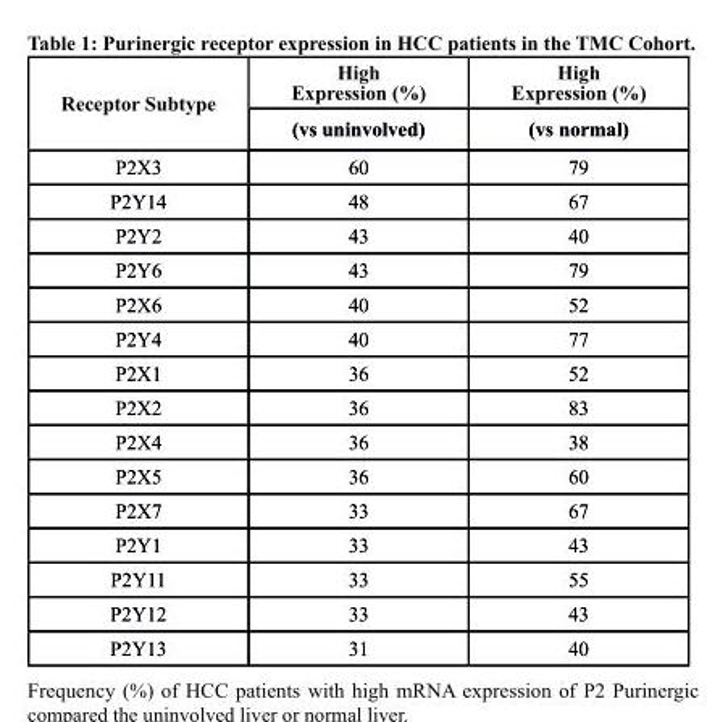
<table><thead><tr><td rowspan="2">receptor subtype</td><td rowspan="2">High Expression (%) (vs uninvolved)</td><td rowspan="2">High Expression (%) (vs normal)</td></tr><tr></tr></thead><tbody><tr><td>P2X3</td><td>60</td><td>79</td></tr><tr><td>P2Y14</td><td>48</td><td>67</td></tr><tr><td>P2Y2</td><td>43</td><td>40</td></tr><tr><td>P2Y6</td><td>43</td><td>79</td></tr><tr><td>P2X6</td><td>40</td><td>52</td></tr><tr><td>P2Y4</td><td>40</td><td>77</td></tr><tr><td>P2X1</td><td>36</td><td>52</td></tr><tr><td>P2X2</td><td>36</td><td>83</td></tr><tr><td>P2X4</td><td>36</td><td>38</td></tr><tr><td>P2X5</td><td>36</td><td>60</td></tr><tr><td>P2X7</td><td>33</td><td>67</td></tr><tr><td>P2Y1</td><td>33</td><td>43</td></tr><tr><td>P2Y11</td><td>33</td><td>55</td></tr><tr><td>P2Y12</td><td>33</td><td>43</td></tr><tr><td>P2Y13</td><td>31</td><td>40</td></tr></tbody></table>